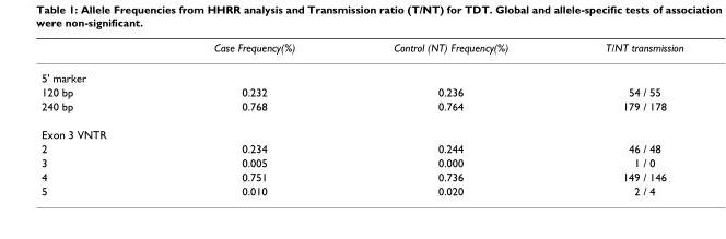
<table><thead><tr><td></td><td>Case Frequency(%)</td><td>Control (NT) Frequency(%)</td><td>T/NT transmission</td></tr></thead><tbody><tr><td colspan="4">5&#x27; marker</td></tr><tr><td>120 bp</td><td>0.232</td><td>0.236</td><td>54 / 55</td></tr><tr><td>240 bp</td><td>0.768</td><td>0.764</td><td>179 / 178</td></tr><tr><td colspan="4">Exon 3 VNTR</td></tr><tr><td>2</td><td>0.234</td><td>0.244</td><td>46 / 48</td></tr><tr><td>3</td><td>0.005</td><td>0.000</td><td>1 / 0</td></tr><tr><td>4</td><td>0.751</td><td>0.736</td><td>149 / 146</td></tr><tr><td>5</td><td>0.010</td><td>0.020</td><td>2 / 4</td></tr></tbody></table>